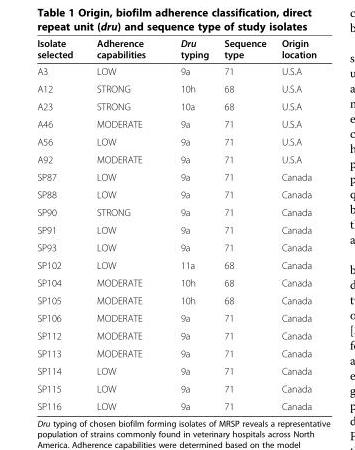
<table><thead><tr><td>Isolate selected</td><td>Adherence capabilities</td><td>Dru typing</td><td>Sequence type</td><td>Origin location</td></tr></thead><tbody><tr><td>A3</td><td>LOW</td><td>9a</td><td>71</td><td>U.S.A</td></tr><tr><td>A12</td><td>STRONG</td><td>10h</td><td>68</td><td>U.S.A</td></tr><tr><td>A23</td><td>STRONG</td><td>10a</td><td>68</td><td>U.S.A</td></tr><tr><td>A46</td><td>MODERATE</td><td>9a</td><td>71</td><td>U.S.A</td></tr><tr><td>A56</td><td>LOW</td><td>9a</td><td>71</td><td>U.S.A</td></tr><tr><td>A92</td><td>MODERATE</td><td>9a</td><td>71</td><td>U.S.A</td></tr><tr><td>SP87</td><td>LOW</td><td>9a</td><td>71</td><td>Canada</td></tr><tr><td>SP88</td><td>LOW</td><td>9a</td><td>71</td><td>Canada</td></tr><tr><td>SP90</td><td>STRONG</td><td>9a</td><td>71</td><td>Canada</td></tr><tr><td>SP91</td><td>LOW</td><td>9a</td><td>71</td><td>Canada</td></tr><tr><td>SP93</td><td>LOW</td><td>9a</td><td>71</td><td>Canada</td></tr><tr><td>SP102</td><td>LOW</td><td>11a</td><td>68</td><td>Canada</td></tr><tr><td>SP104</td><td>MODERATE</td><td>10h</td><td>68</td><td>Canada</td></tr><tr><td>SP105</td><td>MODERATE</td><td>10h</td><td>68</td><td>Canada</td></tr><tr><td>SP106</td><td>MODERATE</td><td>9a</td><td>71</td><td>Canada</td></tr><tr><td>SP112</td><td>MODERATE</td><td>9a</td><td>71</td><td>Canada</td></tr><tr><td>SP113</td><td>MODERATE</td><td>9a</td><td>71</td><td>Canada</td></tr><tr><td>SP114</td><td>LOW</td><td>9a</td><td>71</td><td>Canada</td></tr><tr><td>SP115</td><td>LOW</td><td>9a</td><td>71</td><td>Canada</td></tr><tr><td>SP116</td><td>LOW</td><td>9a</td><td>71</td><td>Canada</td></tr></tbody></table>